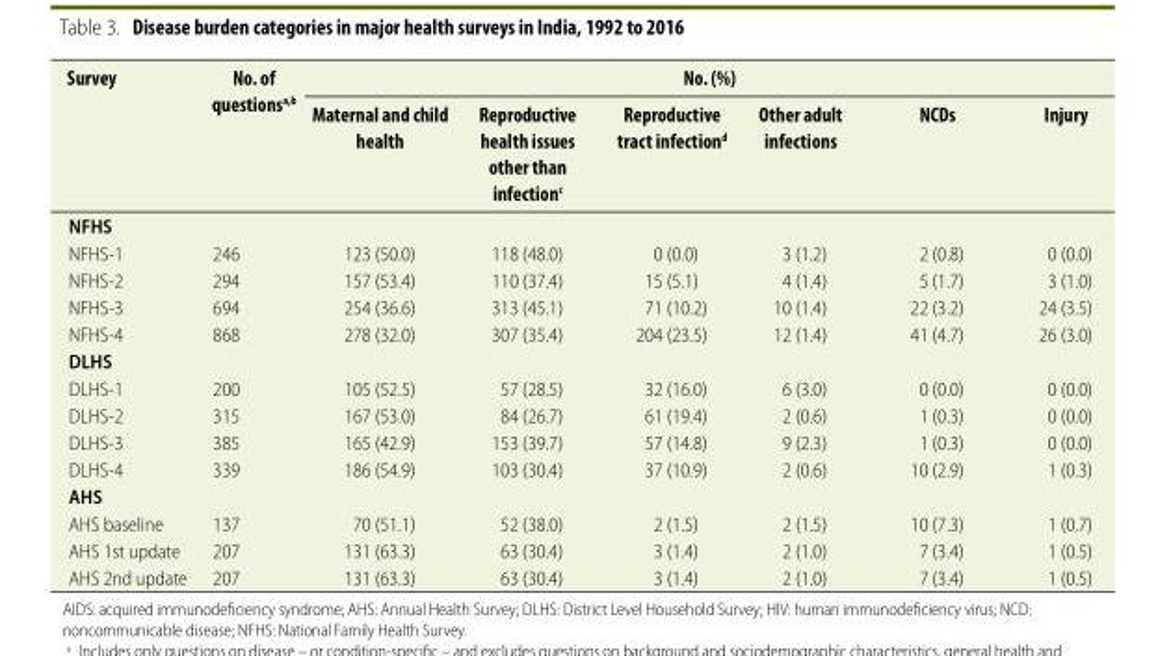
<table><thead><tr><td rowspan="2">Survey</td><td rowspan="2">No. of questions<sup>a,b</sup></td><td colspan="6">No. (%)</td></tr><tr><td>Maternal and child health</td><td>Reproductive health issues other than infection<sup>c</sup></td><td>Reproductive tract infection<sup>d</sup></td><td>Other adult infections</td><td>NCDs</td><td>Injury</td></tr></thead><tbody><tr><td colspan="8">NFHS</td></tr><tr><td>NFHS-1</td><td>246</td><td>123 (50.0)</td><td>118 (48.0)</td><td>0 (0.0)</td><td>3 (1.2)</td><td>2 (0.8)</td><td>0 (0.0)</td></tr><tr><td>NFHS-2</td><td>294</td><td>157 (53.4)</td><td>110 (37.4)</td><td>15 (5.1)</td><td>4 (1.4)</td><td>5 (1.7)</td><td>3 (1.0)</td></tr><tr><td>NFHS-3</td><td>694</td><td>254 (36.6)</td><td>313 (45.1)</td><td>71 (10.2)</td><td>10 (1.4)</td><td>22 (3.2)</td><td>24 (3.5)</td></tr><tr><td>NFHS-4</td><td>868</td><td>278 (32.0)</td><td>307 (35.4)</td><td>204 (23.5)</td><td>12 (1.4)</td><td>41 (4.7)</td><td>26 (3.0)</td></tr><tr><td colspan="8">DLHS</td></tr><tr><td>DLHS-1</td><td>200</td><td>105 (52.5)</td><td>57 (28.5)</td><td>32 (16.0)</td><td>6 (3.0)</td><td>0 (0.0)</td><td>0 (0.0)</td></tr><tr><td>DLHS-2</td><td>315</td><td>167 (53.0)</td><td>84 (26.7)</td><td>61 (19.4)</td><td>2 (0.6)</td><td>1 (0.3)</td><td>0 (0.0)</td></tr><tr><td>DLHS-3</td><td>385</td><td>165 (42.9)</td><td>153 (39.7)</td><td>57 (14.8)</td><td>9 (2.3)</td><td>1 (0.3)</td><td>0 (0.0)</td></tr><tr><td>DLHS-4</td><td>339</td><td>186 (54.9)</td><td>103 (30.4)</td><td>37 (10.9)</td><td>2 (0.6)</td><td>10 (2.9)</td><td>1 (0.3)</td></tr><tr><td colspan="8">AHS</td></tr><tr><td>AHS baseline</td><td>137</td><td>70 (51.1)</td><td>52 (38.0)</td><td>2 (1.5)</td><td>2 (1.5)</td><td>10 (7.3)</td><td>1 (0.7)</td></tr><tr><td>AHS 1st update</td><td>207</td><td>131 (63.3)</td><td>63 (30.4)</td><td>3 (1.4)</td><td>2 (1.0)</td><td>7 (3.4)</td><td>1 (0.5)</td></tr><tr><td>AHS 2nd update</td><td>207</td><td>131 (63.3)</td><td>63 (30.4)</td><td>3 (1.4)</td><td>2 (1.0)</td><td>7 (3.4)</td><td>1 (0.5)</td></tr></tbody></table>